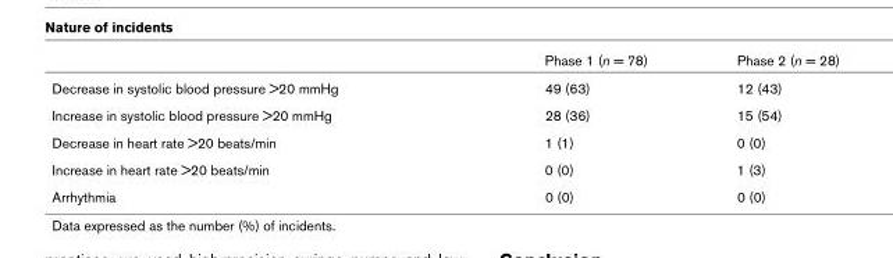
<table><thead><tr><td></td><td>Phase 1 (n = 78)</td><td>Phase 2 (n = 28)</td></tr></thead><tbody><tr><td>Decrease in systolic blood pressure &gt;20 mmHg</td><td>49 (63)</td><td>12 (43)</td></tr><tr><td>Increase in systolic blood pressure &gt;20 mmHg</td><td>28 (36)</td><td>15 (54)</td></tr><tr><td>Decrease in heart rate &gt;20 beats/min</td><td>1 (1)</td><td>0 (0)</td></tr><tr><td>Increase in heart rate &gt;20 beats/min</td><td>0 (0)</td><td>1 (3)</td></tr><tr><td>Arrhythmia</td><td>0 (0)</td><td>0 (0)</td></tr></tbody></table>